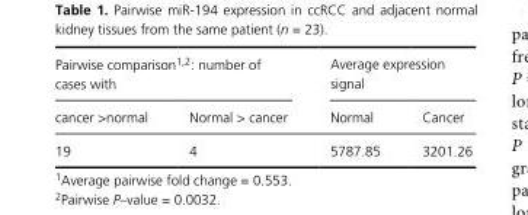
<table><thead><tr><td colspan="2">Pairwise comparison1,2: number of cases with</td><td colspan="2">Average expression signal</td></tr><tr><td>cancer &gt;normal</td><td>Normal &gt; cancer</td><td>Normal</td><td>Cancer</td></tr></thead><tbody><tr><td>19</td><td>4</td><td>5787.85</td><td>3201.26</td></tr></tbody></table>